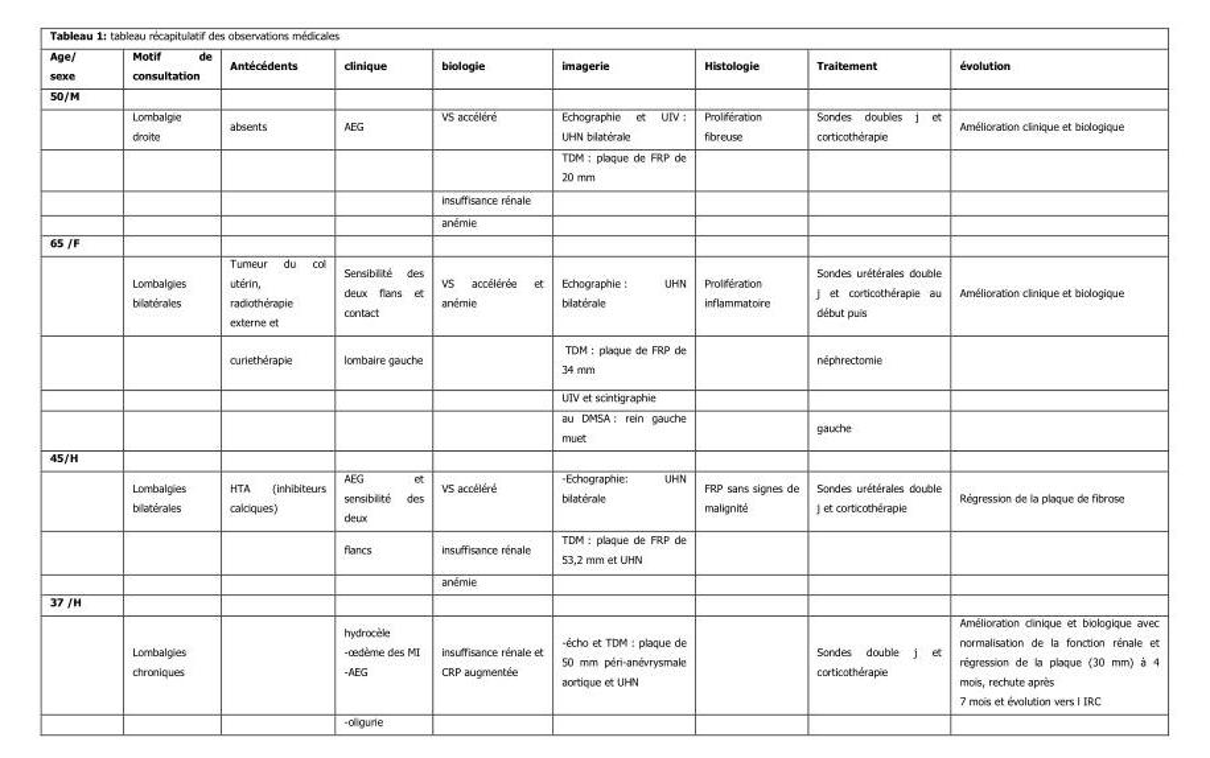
<table><thead><tr><td>Age/ sexe</td><td>Motif de consultation</td><td>Antécédents</td><td>clinique</td><td>biologie</td><td>imagerie</td><td>Histologie</td><td>Traitement</td><td>évolution</td></tr></thead><tbody><tr><td colspan="9">50/M</td></tr><tr><td></td><td>Lombalgie droite</td><td>absents</td><td>AEG</td><td>VS accéléré</td><td>Echographie et UIV : UHN bilatérale</td><td>Prolifération fibreuse</td><td>Sondes doubles j et corticothérapie</td><td>Amélioration clinique et biologique</td></tr><tr><td></td><td></td><td></td><td></td><td></td><td>TDM : plaque de FRP de 20 mm</td><td></td><td></td><td></td></tr><tr><td></td><td></td><td></td><td></td><td>insuffisance rénale</td><td></td><td></td><td></td><td></td></tr><tr><td></td><td></td><td></td><td></td><td>anémie</td><td></td><td></td><td></td><td></td></tr><tr><td colspan="9">65 /F</td></tr><tr><td></td><td>Lombalgies bilatérales</td><td>Tumeur du col utérin, radiothérapie externe et</td><td>Sensibilité des deux flans et contact</td><td>VS accélérée et anémie</td><td>Echographie : UHN bilatérale</td><td>Prolifération inflammatoire</td><td>Sondes urétérales double j et corticothérapie au début puis</td><td>Amélioration clinique et biologique</td></tr><tr><td></td><td></td><td>curiethérapie</td><td>lombaire gauche</td><td></td><td>TDM : plaque de FRP de 34 mm</td><td></td><td>néphrectomie</td><td></td></tr><tr><td></td><td></td><td></td><td></td><td></td><td>UIV et scintigraphie</td><td></td><td></td><td></td></tr><tr><td></td><td></td><td></td><td></td><td></td><td>au DMSA : rein gauche muet</td><td></td><td>gauche</td><td></td></tr><tr><td colspan="9">45/H</td></tr><tr><td></td><td>Lombalgies bilatérales</td><td>HTA (inhibiteurs calciques)</td><td>AEG et sensibilité des deux</td><td>VS accéléré</td><td>-Echographie: UHN bilatérale</td><td>FRP sans signes de malignité</td><td>Sondes urétérales double j et corticothérapie</td><td>Régression de la plaque de fibrose</td></tr><tr><td></td><td></td><td></td><td>flancs</td><td>insuffisance rénale</td><td>TDM : plaque de FRP de 53,2 mm et UHN</td><td></td><td></td><td></td></tr><tr><td></td><td></td><td></td><td></td><td>anémie</td><td></td><td></td><td></td><td></td></tr><tr><td colspan="9">37 /H</td></tr><tr><td></td><td>Lombalgies chroniques</td><td></td><td>hydrocèle -œdème des MI -AEG</td><td>insuffisance rénale et CRP augmentée</td><td>-écho et TDM : plaque de 50 mm péri-anévrysmale aortique et UHN</td><td></td><td>Sondes double j et corticothérapie</td><td>Amélioration clinique et biologique avec normalisation de la fonction rénale et régression de la plaque (30 mm) à 4 mois, rechute après 7 mois et évolution vers l IRC</td></tr></tbody></table>